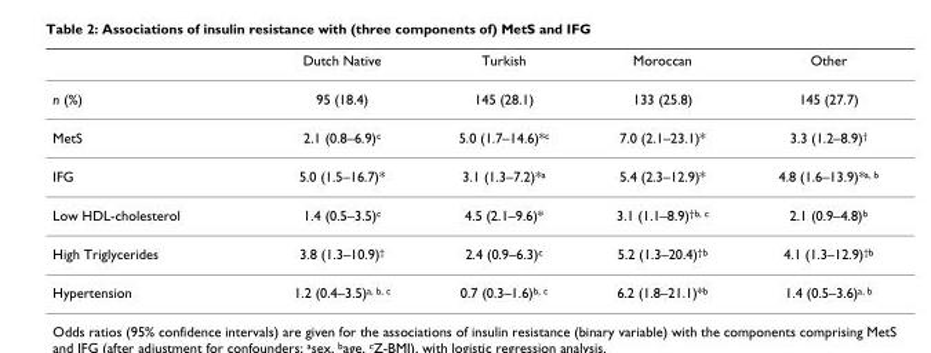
<table><thead><tr><td></td><td>Dutch Native</td><td>Turkish</td><td>Moroccan</td><td>Other</td></tr></thead><tbody><tr><td>n (%)</td><td>95 (18.4)</td><td>145 (28.1)</td><td>133 (25.8)</td><td>145 (27.7)</td></tr><tr><td>MetS</td><td>2.1 (0.8–6.9)<sup>c</sup></td><td>5.0 (1.7–14.6)*<sup>c</sup></td><td>7.0 (2.1–23.1)*</td><td>3.3 (1.2–8.9)<sup>†</sup></td></tr><tr><td>IFG</td><td>5.0 (1.5–16.7)*</td><td>3.1 (1.3–7.2)*<sup>a</sup></td><td>5.4 (2.3–12.9)*</td><td>4.8 (1.6–13.9)*<sup>a, b</sup></td></tr><tr><td>Low HDL-cholesterol</td><td>1.4 (0.5–3.5)<sup>c</sup></td><td>4.5 (2.1–9.6)*</td><td>3.1 (1.1–8.9)<sup>†b, c</sup></td><td>2.1 (0.9–4.8)<sup>b</sup></td></tr><tr><td>High Triglycerides</td><td>3.8 (1.3–10.9)<sup>†</sup></td><td>2.4 (0.9–6.3)<sup>c</sup></td><td>5.2 (1.3–20.4)<sup>†b</sup></td><td>4.1 (1.3–12.9)<sup>†b</sup></td></tr><tr><td>Hypertension</td><td>1.2 (0.4–3.5)<sup>a, b, c</sup></td><td>0.7 (0.3–1.6)<sup>b, c</sup></td><td>6.2 (1.8–21.1)*<sup>b</sup></td><td>1.4 (0.5–3.6)<sup>a, b</sup></td></tr></tbody></table>